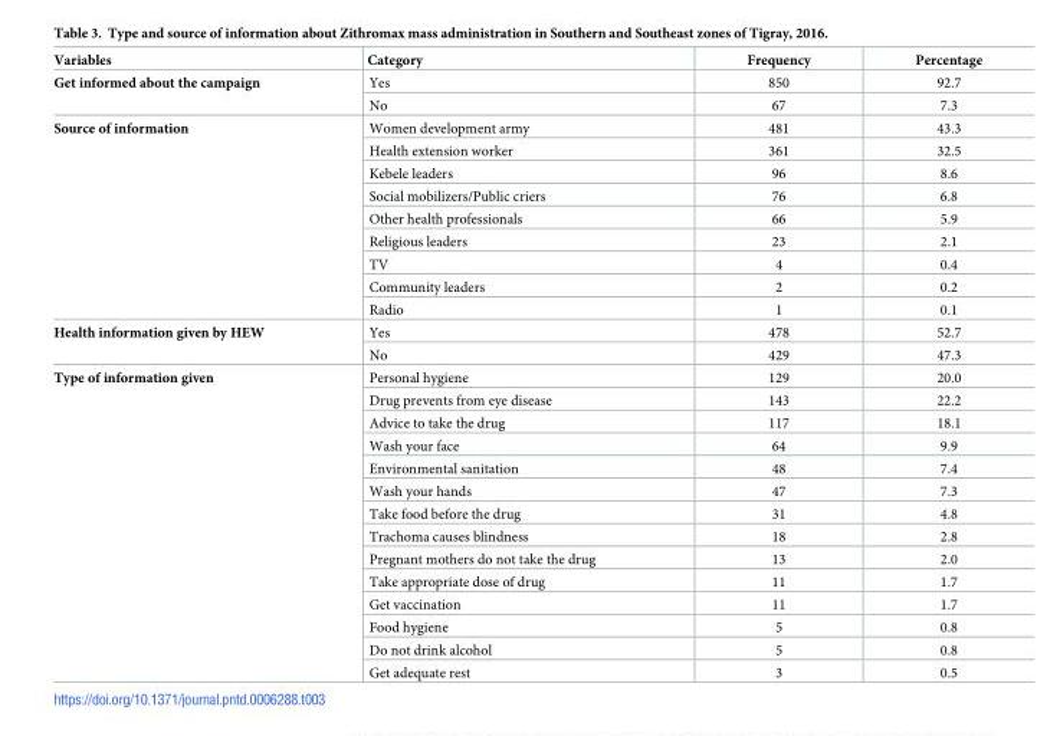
<table><thead><tr><td>Variables</td><td>Category</td><td>Frequency</td><td>Percentage</td></tr></thead><tbody><tr><td rowspan="2">Get informed about the campaign</td><td>Yes</td><td>850</td><td>92.7</td></tr><tr><td>No</td><td>67</td><td>7.3</td></tr><tr><td rowspan="9">Source of information</td><td>Women development army</td><td>481</td><td>43.3</td></tr><tr><td>Health extension worker</td><td>361</td><td>32.5</td></tr><tr><td>Kebele leaders</td><td>96</td><td>8.6</td></tr><tr><td>Social mobilizers/Public criers</td><td>76</td><td>6.8</td></tr><tr><td>Other health professionals</td><td>66</td><td>5.9</td></tr><tr><td>Religious leaders</td><td>23</td><td>2.1</td></tr><tr><td>TV</td><td>4</td><td>0.4</td></tr><tr><td>Community leaders</td><td>2</td><td>0.2</td></tr><tr><td>Radio</td><td>1</td><td>0.1</td></tr><tr><td rowspan="2">Health information given by HEW</td><td>Yes</td><td>478</td><td>52.7</td></tr><tr><td>No</td><td>429</td><td>47.3</td></tr><tr><td rowspan="14">Type of information given</td><td>Personal hygiene</td><td>129</td><td>20.0</td></tr><tr><td>Drug prevents from eye disease</td><td>143</td><td>22.2</td></tr><tr><td>Advice to take the drug</td><td>117</td><td>18.1</td></tr><tr><td>Wash your face</td><td>64</td><td>9.9</td></tr><tr><td>Environmental sanitation</td><td>48</td><td>7.4</td></tr><tr><td>Wash your hands</td><td>47</td><td>7.3</td></tr><tr><td>Take food before the drug</td><td>31</td><td>4.8</td></tr><tr><td>Trachoma causes blindness</td><td>18</td><td>2.8</td></tr><tr><td>Pregnant mothers do not take the drug</td><td>13</td><td>2.0</td></tr><tr><td>Take appropriate dose of drug</td><td>11</td><td>1.7</td></tr><tr><td>Get vaccination</td><td>11</td><td>1.7</td></tr><tr><td>Food hygiene</td><td>5</td><td>0.8</td></tr><tr><td>Do not drink alcohol</td><td>5</td><td>0.8</td></tr><tr><td>Get adequate rest</td><td>3</td><td>0.5</td></tr></tbody></table>